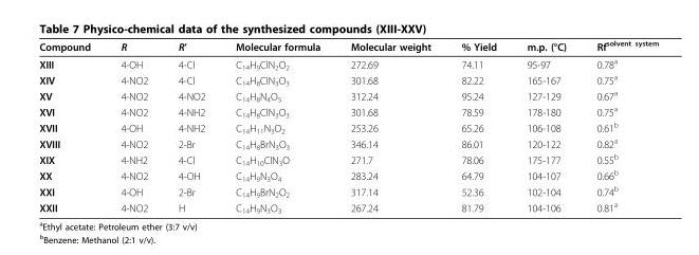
<table><thead><tr><td>Compound</td><td>R</td><td>R’</td><td>Molecular formula</td><td>Molecular weight</td><td>% Yield</td><td>m.p. (°C)</td><td>Rf<sup>solvent system</sup></td></tr></thead><tbody><tr><td>XIII</td><td>4-OH</td><td>4-Cl</td><td>C<sub>14</sub>H<sub>9</sub>ClN<sub>2</sub>O<sub>2</sub></td><td>272.69</td><td>74.11</td><td>95-97</td><td>0.78<sup>a</sup></td></tr><tr><td>XIV</td><td>4-NO2</td><td>4-Cl</td><td>C<sub>14</sub>H<sub>8</sub>ClN<sub>3</sub>O<sub>3</sub></td><td>301.68</td><td>82.22</td><td>165-167</td><td>0.75<sup>a</sup></td></tr><tr><td>XV</td><td>4-NO2</td><td>4-NO2</td><td>C<sub>14</sub>H<sub>8</sub>N<sub>4</sub>O<sub>5</sub></td><td>312.24</td><td>95.24</td><td>127-129</td><td>0.67<sup>a</sup></td></tr><tr><td>XVI</td><td>4-NO2</td><td>4-NH2</td><td>C<sub>14</sub>H<sub>8</sub>ClN<sub>3</sub>O<sub>3</sub></td><td>301.68</td><td>78.59</td><td>178-180</td><td>0.75<sup>a</sup></td></tr><tr><td>XVII</td><td>4-OH</td><td>4-NH2</td><td>C<sub>14</sub>H<sub>11</sub>N<sub>3</sub>O<sub>2</sub></td><td>253.26</td><td>65.26</td><td>106-108</td><td>0.61<sup>b</sup></td></tr><tr><td>XVIII</td><td>4-NO2</td><td>2-Br</td><td>C<sub>14</sub>H<sub>8</sub>BrN<sub>3</sub>O<sub>3</sub></td><td>346.14</td><td>86.01</td><td>120-122</td><td>0.82<sup>a</sup></td></tr><tr><td>XIX</td><td>4-NH2</td><td>4-Cl</td><td>C<sub>14</sub>H<sub>10</sub>ClN<sub>3</sub>O</td><td>271.7</td><td>78.06</td><td>175-177</td><td>0.55<sup>b</sup></td></tr><tr><td>XX</td><td>4-NO2</td><td>4-OH</td><td>C<sub>14</sub>H<sub>9</sub>N<sub>3</sub>O<sub>4</sub></td><td>283.24</td><td>64.79</td><td>104-107</td><td>0.66<sup>b</sup></td></tr><tr><td>XXI</td><td>4-OH</td><td>2-Br</td><td>C<sub>14</sub>H<sub>9</sub>BrN<sub>2</sub>O<sub>2</sub></td><td>317.14</td><td>52.36</td><td>102-104</td><td>0.74<sup>b</sup></td></tr><tr><td>XXII</td><td>4-NO2</td><td>H</td><td>C<sub>14</sub>H<sub>9</sub>N<sub>3</sub>O<sub>3</sub></td><td>267.24</td><td>81.79</td><td>104-106</td><td>0.81<sup>a</sup></td></tr></tbody></table>